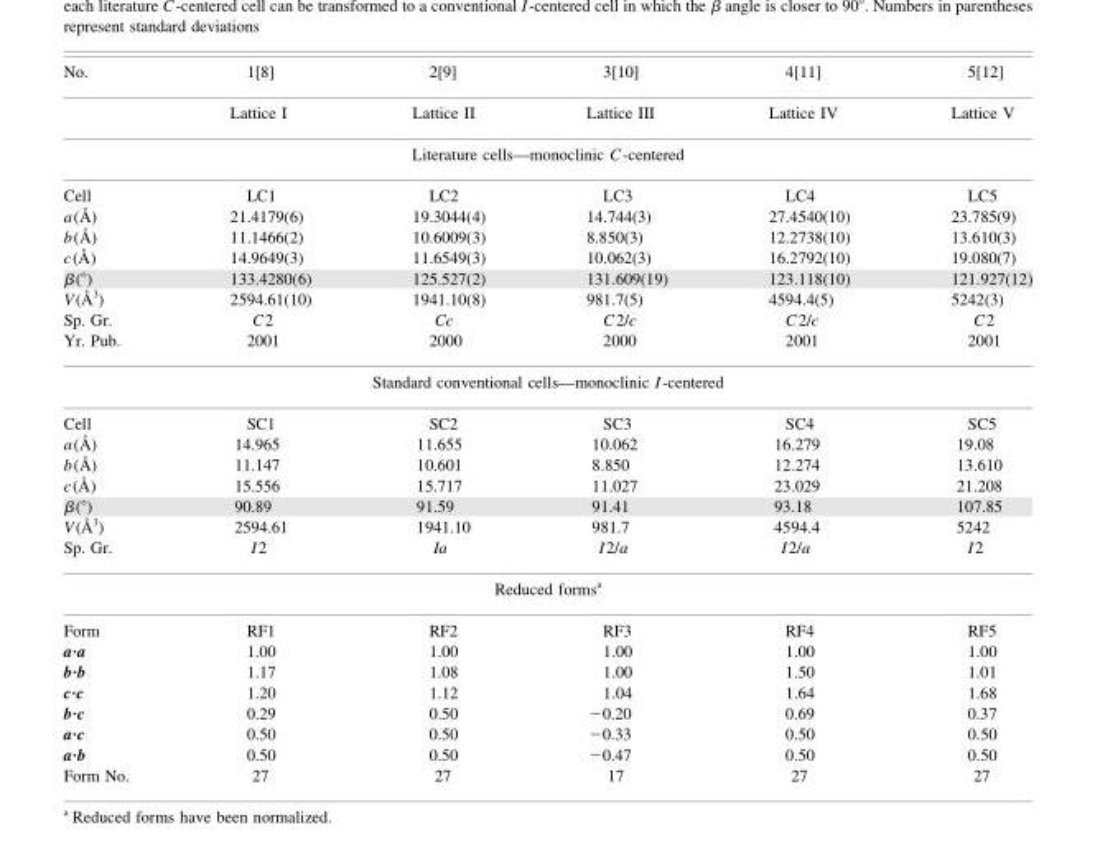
<table><thead><tr><td rowspan="2">No.</td><td rowspan="2">1[8] Lattice I</td><td rowspan="2">2[9] Lattice II</td><td rowspan="2">3[10] Lattice III</td><td rowspan="2">4[11] Lattice IV</td><td rowspan="2">5[12] Lattice V</td></tr><tr></tr></thead><tbody><tr><td colspan="6">Literature cells—monoclinic C-centered</td></tr><tr><td>Cell</td><td>LC1</td><td>LC2</td><td>LC3</td><td>LC4</td><td>LC5</td></tr><tr><td>a(Å)</td><td>21.4179(6)</td><td>19.3044(4)</td><td>14.744(3)</td><td>27.4540(10)</td><td>23.785(9)</td></tr><tr><td>b(Å)</td><td>11.1466(2)</td><td>10.6009(3)</td><td>8.850(3)</td><td>12.2738(10)</td><td>13.610(3)</td></tr><tr><td>c(Å)</td><td>14.9649(3)</td><td>11.6549(3)</td><td>10.062(3)</td><td>16.2792(10)</td><td>19.080(7)</td></tr><tr><td>β(°)</td><td>133.4280(6)</td><td>125.527(2)</td><td>131.609(19)</td><td>123.118(10)</td><td>121.927(12)</td></tr><tr><td>V(Å<sup>3</sup>)</td><td>2594.61(10)</td><td>1941.10(8)</td><td>981.7(5)</td><td>4594.4(5)</td><td>5242(3)</td></tr><tr><td>Sp. Gr.</td><td>C2</td><td>Cc</td><td>C2/c</td><td>C2/c</td><td>C2</td></tr><tr><td>Yr. Pub.</td><td>2001</td><td>2000</td><td>2000</td><td>2001</td><td>2001</td></tr><tr><td colspan="6">Standard conventional cells—monoclinic I-centered</td></tr><tr><td>Cell</td><td>SC1</td><td>SC2</td><td>SC3</td><td>SC4</td><td>SC5</td></tr><tr><td>a(Å)</td><td>14.965</td><td>11.655</td><td>10.062</td><td>16.279</td><td>19.08</td></tr><tr><td>b(Å)</td><td>11.147</td><td>10.601</td><td>8.850</td><td>12.274</td><td>13.610</td></tr><tr><td>c(Å)</td><td>15.556</td><td>15.717</td><td>11.027</td><td>23.029</td><td>21.208</td></tr><tr><td>β(°)</td><td>90.89</td><td>91.59</td><td>91.41</td><td>93.18</td><td>107.85</td></tr><tr><td>V(Å<sup>3</sup>)</td><td>2594.61</td><td>1941.10</td><td>981.7</td><td>4594.4</td><td>5242</td></tr><tr><td>Sp. Gr.</td><td>I2</td><td>Ia</td><td>I2/a</td><td>I2/a</td><td>I2</td></tr><tr><td colspan="6">Reduced forms<sup>a</sup></td></tr><tr><td>Form</td><td>RF1</td><td>RF2</td><td>RF3</td><td>RF4</td><td>RF5</td></tr><tr><td>a·a</td><td>1.00</td><td>1.00</td><td>1.00</td><td>1.00</td><td>1.00</td></tr><tr><td>b·b</td><td>1.17</td><td>1.08</td><td>1.00</td><td>1.50</td><td>1.01</td></tr><tr><td>c·c</td><td>1.20</td><td>1.12</td><td>1.04</td><td>1.64</td><td>1.68</td></tr><tr><td>b·c</td><td>0.29</td><td>0.50</td><td>−0.20</td><td>0.69</td><td>0.37</td></tr><tr><td>a·c</td><td>0.50</td><td>0.50</td><td>−0.33</td><td>0.50</td><td>0.50</td></tr><tr><td>a·b</td><td>0.50</td><td>0.50</td><td>−0.47</td><td>0.50</td><td>0.50</td></tr><tr><td>Form No.</td><td>27</td><td>27</td><td>17</td><td>27</td><td>27</td></tr></tbody></table>